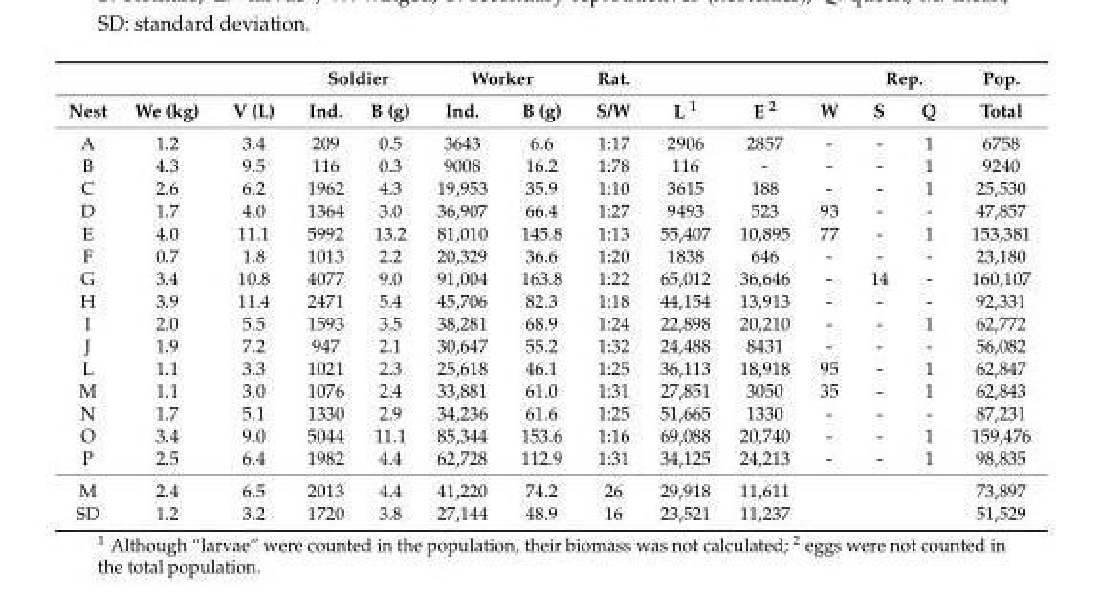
<table><thead><tr><td rowspan="2">Nest</td><td rowspan="2">We (kg)</td><td rowspan="2">V (L)</td><td colspan="2">Soldier</td><td colspan="2">Worker</td><td rowspan="2">Rat. S/W</td><td rowspan="2">L <sup>1</sup></td><td rowspan="2">E <sup>2</sup></td><td rowspan="2">W</td><td colspan="2">Rep.</td><td rowspan="2">Pop. Total</td></tr><tr><td>Ind.</td><td>B (g)</td><td>Ind.</td><td>B (g)</td><td>S</td><td>Q</td></tr></thead><tbody><tr><td>A</td><td>1.2</td><td>3.4</td><td>209</td><td>0.5</td><td>3643</td><td>6.6</td><td>1:17</td><td>2906</td><td>2857</td><td>-</td><td>-</td><td>1</td><td>6758</td></tr><tr><td>B</td><td>4.3</td><td>9.5</td><td>116</td><td>0.3</td><td>9008</td><td>16.2</td><td>1:78</td><td>116</td><td>-</td><td>-</td><td>-</td><td>1</td><td>9240</td></tr><tr><td>C</td><td>2.6</td><td>6.2</td><td>1962</td><td>4.3</td><td>19,953</td><td>35.9</td><td>1:10</td><td>3615</td><td>188</td><td>-</td><td>-</td><td>1</td><td>25,530</td></tr><tr><td>D</td><td>1.7</td><td>4.0</td><td>1364</td><td>3.0</td><td>36,907</td><td>66.4</td><td>1:27</td><td>9493</td><td>523</td><td>93</td><td>-</td><td>-</td><td>47,857</td></tr><tr><td>E</td><td>4.0</td><td>11.1</td><td>5992</td><td>13.2</td><td>81,010</td><td>145.8</td><td>1:13</td><td>55,407</td><td>10,895</td><td>77</td><td>-</td><td>1</td><td>153,381</td></tr><tr><td>F</td><td>0.7</td><td>1.8</td><td>1013</td><td>2.2</td><td>20,329</td><td>36.6</td><td>1:20</td><td>1838</td><td>646</td><td>-</td><td>-</td><td>-</td><td>23,180</td></tr><tr><td>G</td><td>3.4</td><td>10.8</td><td>4077</td><td>9.0</td><td>91,004</td><td>163.8</td><td>1:22</td><td>65,012</td><td>36,646</td><td>-</td><td>14</td><td>-</td><td>160,107</td></tr><tr><td>H</td><td>3.9</td><td>11.4</td><td>2471</td><td>5.4</td><td>45,706</td><td>82.3</td><td>1:18</td><td>44,154</td><td>13,913</td><td>-</td><td>-</td><td>-</td><td>92,331</td></tr><tr><td>I</td><td>2.0</td><td>5.5</td><td>1593</td><td>3.5</td><td>38,281</td><td>68.9</td><td>1:24</td><td>22,898</td><td>20,210</td><td>-</td><td>-</td><td>1</td><td>62,772</td></tr><tr><td>J</td><td>1.9</td><td>7.2</td><td>947</td><td>2.1</td><td>30,647</td><td>55.2</td><td>1:32</td><td>24,488</td><td>8431</td><td>-</td><td>-</td><td>-</td><td>56,082</td></tr><tr><td>L</td><td>1.1</td><td>3.3</td><td>1021</td><td>2.3</td><td>25,618</td><td>46.1</td><td>1:25</td><td>36,113</td><td>18,918</td><td>95</td><td>-</td><td>1</td><td>62,847</td></tr><tr><td>M</td><td>1.1</td><td>3.0</td><td>1076</td><td>2.4</td><td>33,881</td><td>61.0</td><td>1:31</td><td>27,851</td><td>3050</td><td>35</td><td>-</td><td>1</td><td>62,843</td></tr><tr><td>N</td><td>1.7</td><td>5.1</td><td>1330</td><td>2.9</td><td>34,236</td><td>61.6</td><td>1:25</td><td>51,665</td><td>1330</td><td>-</td><td>-</td><td>-</td><td>87,231</td></tr><tr><td>O</td><td>3.4</td><td>9.0</td><td>5044</td><td>11.1</td><td>85,344</td><td>153.6</td><td>1:16</td><td>69,088</td><td>20,740</td><td>-</td><td>-</td><td>1</td><td>159,476</td></tr><tr><td>P</td><td>2.5</td><td>6.4</td><td>1982</td><td>4.4</td><td>62,728</td><td>112.9</td><td>1:31</td><td>34,125</td><td>24,213</td><td>-</td><td>-</td><td>1</td><td>98,835</td></tr><tr><td>M</td><td>2.4</td><td>6.5</td><td>2013</td><td>4.4</td><td>41,220</td><td>74.2</td><td>26</td><td>29,918</td><td>11,611</td><td></td><td></td><td></td><td>73,897</td></tr><tr><td>SD</td><td>1.2</td><td>3.2</td><td>1720</td><td>3.8</td><td>27,144</td><td>48.9</td><td>16</td><td>23,521</td><td>11,237</td><td></td><td></td><td></td><td>51,529</td></tr></tbody></table>